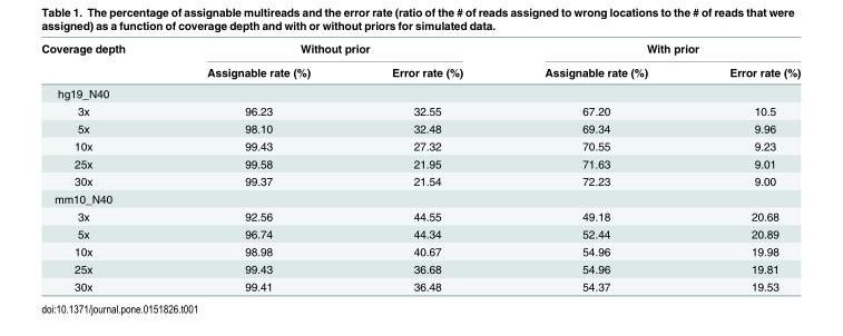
<table><thead><tr><td rowspan="2">Coverage depth</td><td colspan="2">Without prior</td><td colspan="2">With prior</td></tr><tr><td>Assignable rate (%)</td><td>Error rate (%)</td><td>Assignable rate (%)</td><td>Error rate (%)</td></tr></thead><tbody><tr><td colspan="5">hg19_N40</td></tr><tr><td>3x</td><td>96.23</td><td>32.55</td><td>67.20</td><td>10.5</td></tr><tr><td>5x</td><td>98.10</td><td>32.48</td><td>69.34</td><td>9.96</td></tr><tr><td>10x</td><td>99.43</td><td>27.32</td><td>70.55</td><td>9.23</td></tr><tr><td>25x</td><td>99.58</td><td>21.95</td><td>71.63</td><td>9.01</td></tr><tr><td>30x</td><td>99.37</td><td>21.54</td><td>72.23</td><td>9.00</td></tr><tr><td colspan="5">mm10_N40</td></tr><tr><td>3x</td><td>92.56</td><td>44.55</td><td>49.18</td><td>20.68</td></tr><tr><td>5x</td><td>96.74</td><td>44.34</td><td>52.44</td><td>20.89</td></tr><tr><td>10x</td><td>98.98</td><td>40.67</td><td>54.96</td><td>19.98</td></tr><tr><td>25x</td><td>99.43</td><td>36.68</td><td>54.96</td><td>19.81</td></tr><tr><td>30x</td><td>99.41</td><td>36.48</td><td>54.37</td><td>19.53</td></tr></tbody></table>